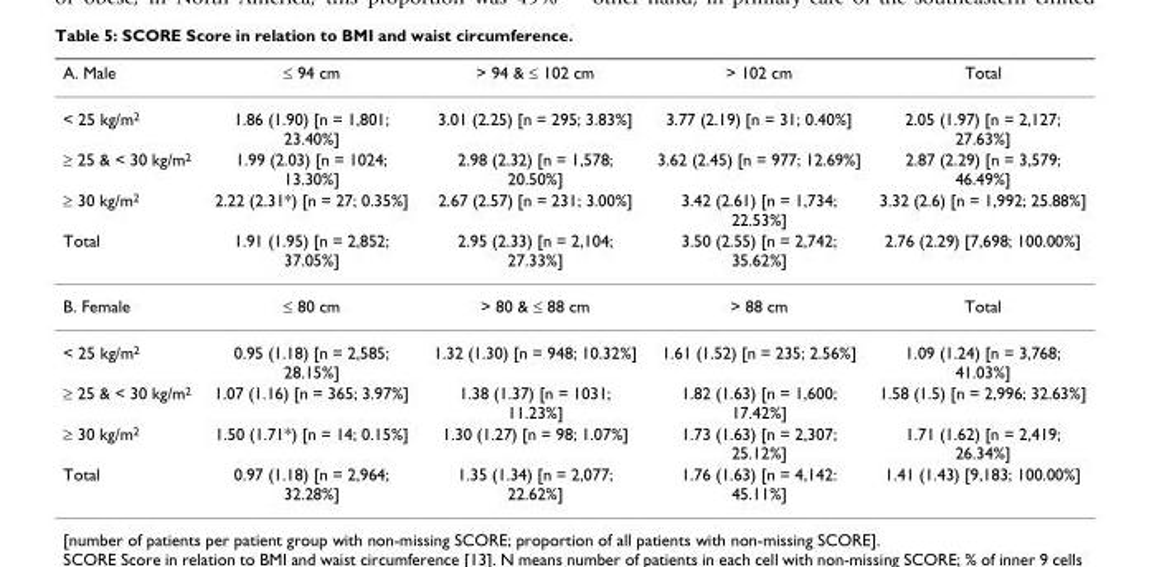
<table><thead><tr><td>A. Male</td><td>≤ 94 cm</td><td>&gt; 94 &amp; ≤ 102 cm</td><td>&gt; 102 cm</td><td>Total</td></tr></thead><tbody><tr><td>&lt; 25 kg/m<sup>2</sup></td><td>1.86 (1.90) [n = 1,801; 23.40%]</td><td>3.01 (2.25) [n = 295; 3.83%]</td><td>3.77 (2.19) [n = 31; 0.40%]</td><td>2.05 (1.97) [n = 2,127; 27.63%]</td></tr><tr><td>≥ 25 &amp; &lt; 30 kg/m<sup>2</sup></td><td>1.99 (2.03) [n = 1024; 13.30%]</td><td>2.98 (2.32) [n = 1,578; 20.50%]</td><td>3.62 (2.45) [n = 977; 12.69%]</td><td>2.87 (2.29) [n = 3,579; 46.49%]</td></tr><tr><td>≥ 30 kg/m<sup>2</sup></td><td>2.22 (2.31*) [n = 27; 0.35%]</td><td>2.67 (2.57) [n = 231; 3.00%]</td><td>3.42 (2.61) [n = 1,734; 22.53%]</td><td>3.32 (2.6) [n = 1,992; 25.88%]</td></tr><tr><td>Total</td><td>1.91 (1.95) [n = 2,852; 37.05%]</td><td>2.95 (2.33) [n = 2,104; 27.33%]</td><td>3.50 (2.55) [n = 2,742; 35.62%]</td><td>2.76 (2.29) [7,698; 100.00%]</td></tr><tr><td>B. Female</td><td>≤ 80 cm</td><td>&gt; 80 &amp; ≤ 88 cm</td><td>&gt; 88 cm</td><td>Total</td></tr><tr><td>&lt; 25 kg/m<sup>2</sup></td><td>0.95 (1.18) [n = 2,585; 28.15%]</td><td>1.32 (1.30) [n = 948; 10.32%]</td><td>1.61 (1.52) [n = 235; 2.56%]</td><td>1.09 (1.24) [n = 3,768; 41.03%]</td></tr><tr><td>≥ 25 &amp; &lt; 30 kg/m<sup>2</sup></td><td>1.07 (1.16) [n = 365; 3.97%]</td><td>1.38 (1.37) [n = 1031; 11.23%]</td><td>1.82 (1.63) [n = 1,600; 17.42%]</td><td>1.58 (1.5) [n = 2,996; 32.63%]</td></tr><tr><td>≥ 30 kg/m<sup>2</sup></td><td>1.50 (1.71*) [n = 14; 0.15%]</td><td>1.30 (1.27) [n = 98; 1.07%]</td><td>1.73 (1.63) [n = 2,307; 25.12%]</td><td>1.71 (1.62) [n = 2,419; 26.34%]</td></tr><tr><td>Total</td><td>0.97 (1.18) [n = 2,964; 32.28%]</td><td>1.35 (1.34) [n = 2,077; 22.62%]</td><td>1.76 (1.63) [n = 4,142: 45.11%]</td><td>1.41 (1.43) [9,183; 100.00%]</td></tr></tbody></table>